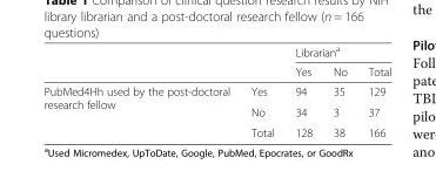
<table><thead><tr><td rowspan="2"></td><td rowspan="2"></td><td colspan="3">Librarian<sup>a</sup></td></tr><tr><td>Yes</td><td>No</td><td>Total</td></tr></thead><tbody><tr><td rowspan="3">PubMed4Hh used by the post-doctoral research fellow</td><td>Yes</td><td>94</td><td>35</td><td>129</td></tr><tr><td>No</td><td>34</td><td>3</td><td>37</td></tr><tr><td>Total</td><td>128</td><td>38</td><td>166</td></tr></tbody></table>